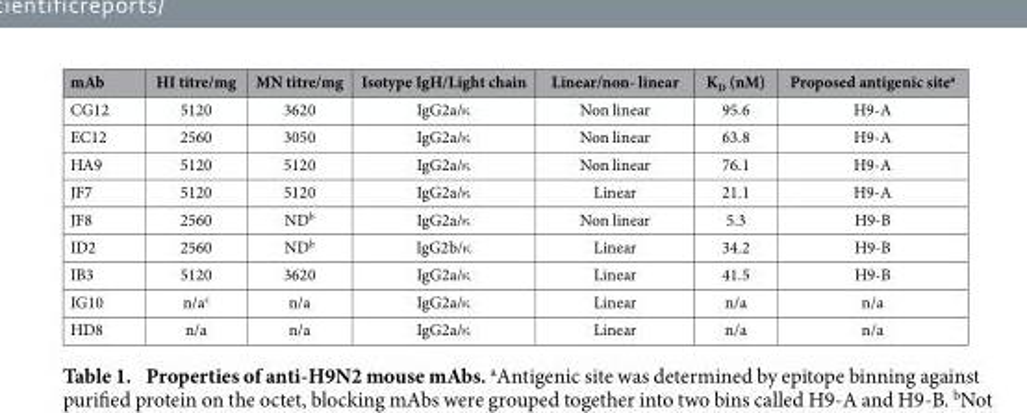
<table><thead><tr><td>mAb</td><td>HI titre/mg</td><td>MN titre/mg</td><td>Isotype IgH/Light chain</td><td>Linear/non- linear</td><td>K<sub>D</sub> (nM)</td><td>Proposed antigenic site<sup>a</sup></td></tr></thead><tbody><tr><td>CG12</td><td>5120</td><td>3620</td><td>IgG2a/κ</td><td>Non linear</td><td>95.6</td><td>H9-A</td></tr><tr><td>EC12</td><td>2560</td><td>3050</td><td>IgG2a/κ</td><td>Non linear</td><td>63.8</td><td>H9-A</td></tr><tr><td>HA9</td><td>5120</td><td>5120</td><td>IgG2a/κ</td><td>Non linear</td><td>76.1</td><td>H9-A</td></tr><tr><td>JF7</td><td>5120</td><td>5120</td><td>IgG2a/κ</td><td>Linear</td><td>21.1</td><td>H9-A</td></tr><tr><td>JF8</td><td>2560</td><td>ND<sup>b</sup></td><td>IgG2a/κ</td><td>Non linear</td><td>5.3</td><td>H9-B</td></tr><tr><td>ID2</td><td>2560</td><td>ND<sup>b</sup></td><td>IgG2b/κ</td><td>Linear</td><td>34.2</td><td>H9-B</td></tr><tr><td>IB3</td><td>5120</td><td>3620</td><td>IgG2a/κ</td><td>Linear</td><td>41.5</td><td>H9-B</td></tr><tr><td>IG10</td><td>n/a<sup>c</sup></td><td>n/a</td><td>IgG2a/κ</td><td>Linear</td><td>n/a</td><td>n/a</td></tr><tr><td>HD8</td><td>n/a</td><td>n/a</td><td>IgG2a/κ</td><td>Linear</td><td>n/a</td><td>n/a</td></tr></tbody></table>